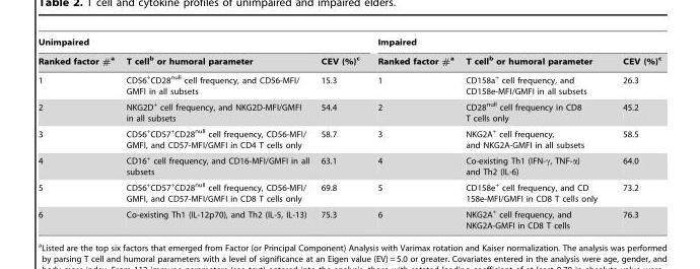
<table><thead><tr><td colspan="3">Unimpaired</td><td colspan="3">Impaired</td></tr><tr><td>Ranked factor #<sup>a</sup></td><td>T cell<sup>b</sup> or humoral parameter</td><td>CEV (%)<sup>c</sup></td><td>Ranked factor #<sup>a</sup></td><td>T cell<sup>b</sup> or humoral parameter</td><td>CEV (%)<sup>c</sup></td></tr></thead><tbody><tr><td>1</td><td>CD56<sup>+</sup>CD28<sup>null</sup> cell frequency, and CD56-MFI/ GMFI in all subsets</td><td>15.3</td><td>1</td><td>CD158a<sup>+</sup> cell frequency, and CD158e-MFI/GMFI in all subsets</td><td>26.3</td></tr><tr><td>2</td><td>NKG2D<sup>+</sup> cell frequency, and NKG2D-MFI/GMFI in all subsets</td><td>54.4</td><td>2</td><td>CD28<sup>null</sup> cell frequency in CD8 T cells only</td><td>45.2</td></tr><tr><td>3</td><td>CD56<sup>+</sup>CD57<sup>+</sup>CD28<sup>null</sup> cell frequency, CD56-MFI/ GMFI, and CD57-MFI/GMFI in CD4 T cells only</td><td>58.7</td><td>3</td><td>NKG2A<sup>+</sup> cell frequency, and NKG2A-GMFI in all subsets</td><td>58.5</td></tr><tr><td>4</td><td>CD16<sup>+</sup> cell frequency, and CD16-MFI/GMFI in all subsets</td><td>63.1</td><td>4</td><td>Co-existing Th1 (IFN-γ, TNF-α) and Th2 (IL-6)</td><td>64.0</td></tr><tr><td>5</td><td>CD56<sup>+</sup>CD57<sup>+</sup>CD28<sup>null</sup> cell frequency, CD56-MFI/ GMFI, and CD57-MFI/GMFI in CD8 T cells only</td><td>69.8</td><td>5</td><td>CD158e<sup>+</sup> cell frequency, and CD 158e-MFI/GMFI in CD8 T cells only</td><td>73.2</td></tr><tr><td>6</td><td>Co-existing Th1 (IL-12p70), and Th2 (IL-5, IL-13)</td><td>75.3</td><td>6</td><td>NKG2A<sup>+</sup> cell frequency, and NKG2A-GMFI in CD8 T cells</td><td>76.3</td></tr></tbody></table>